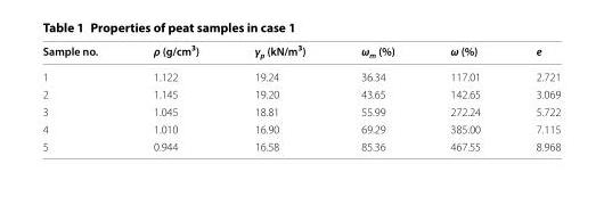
<table><thead><tr><td>Sample no.</td><td>ρ (g/cm<sup>3</sup>)</td><td>γ<sub>p</sub> (kN/m<sup>3</sup>)</td><td>ω<sub>m</sub> (%)</td><td>ω (%)</td><td>e</td></tr></thead><tbody><tr><td>1</td><td>1.122</td><td>19.24</td><td>36.34</td><td>117.01</td><td>2.721</td></tr><tr><td>2</td><td>1.145</td><td>19.20</td><td>43.65</td><td>142.65</td><td>3.069</td></tr><tr><td>3</td><td>1.045</td><td>18.81</td><td>55.99</td><td>272.24</td><td>5.722</td></tr><tr><td>4</td><td>1.010</td><td>16.90</td><td>69.29</td><td>385.00</td><td>7.115</td></tr><tr><td>5</td><td>0.944</td><td>16.58</td><td>85.36</td><td>467.55</td><td>8.968</td></tr></tbody></table>